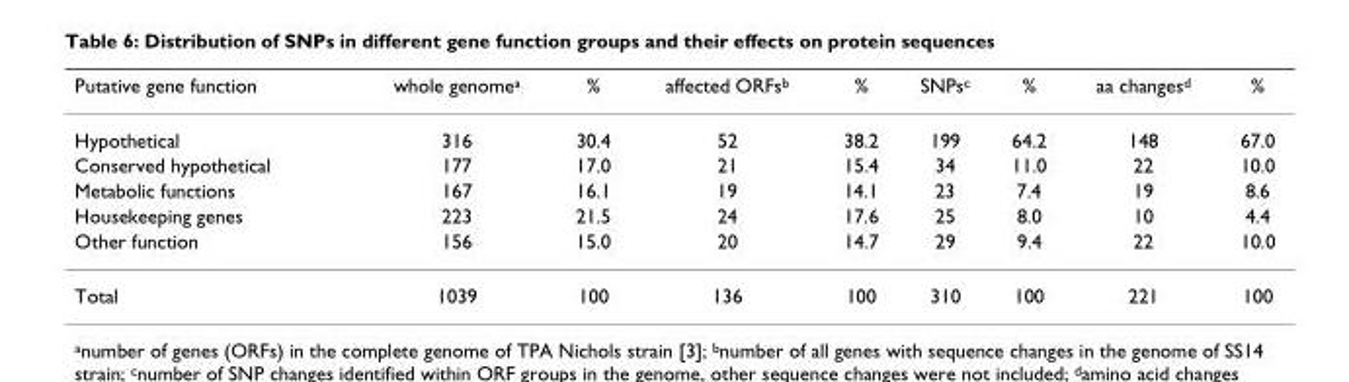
<table><thead><tr><td>Putative gene function</td><td>whole genome<sup>a</sup></td><td>%</td><td>affected ORFs<sup>b</sup></td><td>%</td><td>SNPs<sup>c</sup></td><td>%</td><td>aa changes<sup>d</sup></td><td>%</td></tr></thead><tbody><tr><td>Hypothetical</td><td>316</td><td>30.4</td><td>52</td><td>38.2</td><td>199</td><td>64.2</td><td>148</td><td>67.0</td></tr><tr><td>Conserved hypothetical</td><td>177</td><td>17.0</td><td>21</td><td>15.4</td><td>34</td><td>11.0</td><td>22</td><td>10.0</td></tr><tr><td>Metabolic functions</td><td>167</td><td>16.1</td><td>19</td><td>14.1</td><td>23</td><td>7.4</td><td>19</td><td>8.6</td></tr><tr><td>Housekeeping genes</td><td>223</td><td>21.5</td><td>24</td><td>17.6</td><td>25</td><td>8.0</td><td>10</td><td>4.4</td></tr><tr><td>Other function</td><td>156</td><td>15.0</td><td>20</td><td>14.7</td><td>29</td><td>9.4</td><td>22</td><td>10.0</td></tr><tr><td>Total</td><td>1039</td><td>100</td><td>136</td><td>100</td><td>310</td><td>100</td><td>221</td><td>100</td></tr></tbody></table>